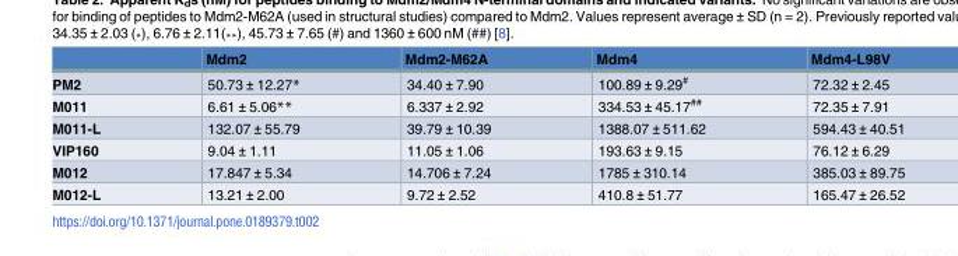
<table><thead><tr><td></td><td>Mdm2</td><td>Mdm2-M62A</td><td>Mdm4</td><td>Mdm4-L98V</td></tr></thead><tbody><tr><td>PM2</td><td>50.73 ± 12.27*</td><td>34.40 ± 7.90</td><td>100.89 ± 9.29<sup>#</sup></td><td>72.32 ± 2.45</td></tr><tr><td>M011</td><td>6.61 ± 5.06**</td><td>6.337 ± 2.92</td><td>334.53 ± 45.17<sup>##</sup></td><td>72.35 ± 7.91</td></tr><tr><td>M011-L</td><td>132.07 ± 55.79</td><td>39.79 ± 10.39</td><td>1388.07 ± 511.62</td><td>594.43 ± 40.51</td></tr><tr><td>VIP160</td><td>9.04 ± 1.11</td><td>11.05 ± 1.06</td><td>193.63 ± 9.15</td><td>76.12 ± 6.29</td></tr><tr><td>M012</td><td>17.847 ± 5.34</td><td>14.706 ± 7.24</td><td>1785 ± 310.14</td><td>385.03 ± 89.75</td></tr><tr><td>M012-L</td><td>13.21 ± 2.00</td><td>9.72 ± 2.52</td><td>410.8 ± 51.77</td><td>165.47 ± 26.52</td></tr></tbody></table>